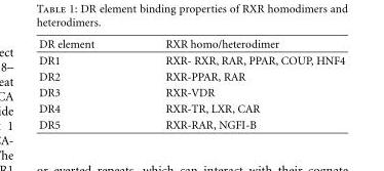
<table><thead><tr><td>DR element</td><td>RXR homo/heterodimer</td></tr></thead><tbody><tr><td>DR1</td><td>RXR- RXR, RAR, PPAR, COUP, HNF4</td></tr><tr><td>DR2</td><td>RXR-PPAR, RAR</td></tr><tr><td>DR3</td><td>RXR-VDR</td></tr><tr><td>DR4</td><td>RXR-TR, LXR, CAR</td></tr><tr><td>DR5</td><td>RXR-RAR, NGFI-B</td></tr></tbody></table>